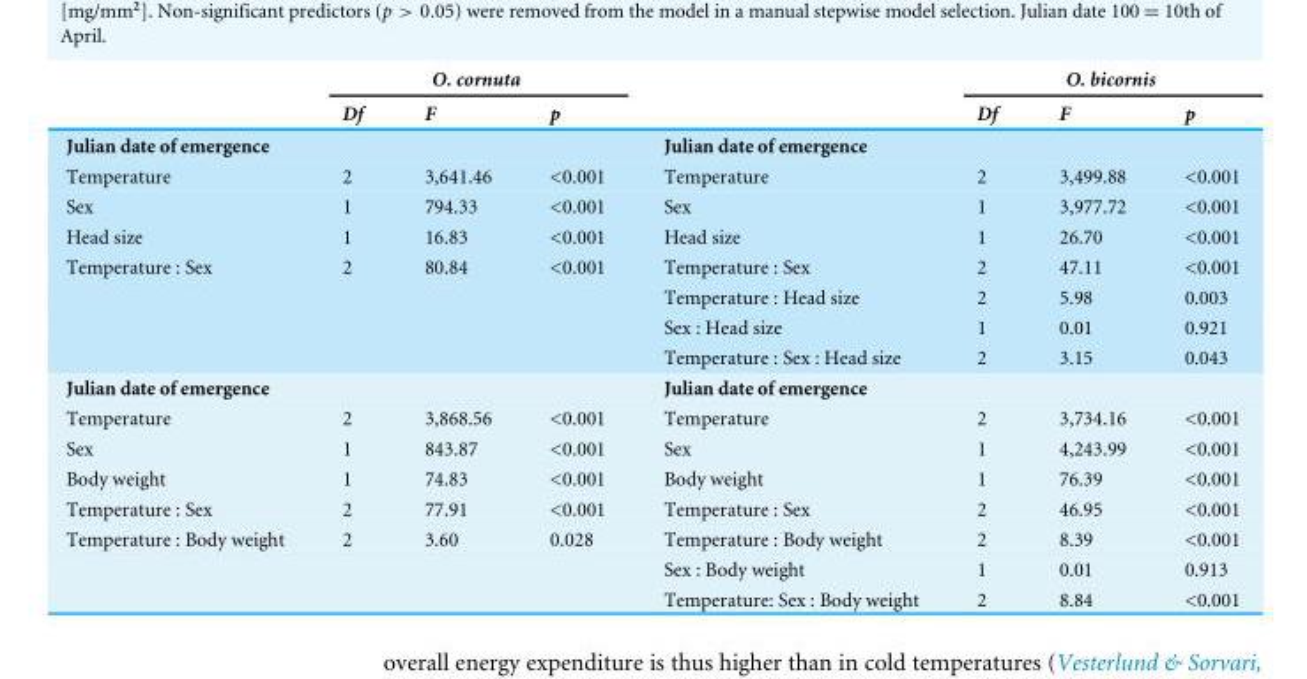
<table><thead><tr><td rowspan="2"></td><td colspan="3">O. cornuta</td><td rowspan="2"></td><td colspan="3">O. bicornis</td></tr><tr><td>Df</td><td>F</td><td>p</td><td>Df</td><td>F</td><td>p</td></tr></thead><tbody><tr><td>Julian date of emergence</td><td></td><td></td><td></td><td>Julian date of emergence</td><td></td><td></td><td></td></tr><tr><td>Temperature</td><td>2</td><td>3,641.46</td><td>&lt;0.001</td><td>Temperature</td><td>2</td><td>3,499.88</td><td>&lt;0.001</td></tr><tr><td>Sex</td><td>1</td><td>794.33</td><td>&lt;0.001</td><td>Sex</td><td>1</td><td>3,977.72</td><td>&lt;0.001</td></tr><tr><td>Head size</td><td>1</td><td>16.83</td><td>&lt;0.001</td><td>Head size</td><td>1</td><td>26.70</td><td>&lt;0.001</td></tr><tr><td rowspan="4">Temperature : Sex</td><td>2</td><td>80.84</td><td>&lt;0.001</td><td>Temperature : Sex</td><td>2</td><td>47.11</td><td>&lt;0.001</td></tr><tr><td></td><td></td><td></td><td>Temperature : Head size</td><td>2</td><td>5.98</td><td>0.003</td></tr><tr><td></td><td></td><td></td><td>Sex : Head size</td><td>1</td><td>0.01</td><td>0.921</td></tr><tr><td></td><td></td><td></td><td>Temperature : Sex : Head size</td><td>2</td><td>3.15</td><td>0.043</td></tr><tr><td>Julian date of emergence</td><td></td><td></td><td></td><td>Julian date of emergence</td><td></td><td></td><td></td></tr><tr><td>Temperature</td><td>2</td><td>3,868.56</td><td>&lt;0.001</td><td>Temperature</td><td>2</td><td>3,734.16</td><td>&lt;0.001</td></tr><tr><td>Sex</td><td>1</td><td>843.87</td><td>&lt;0.001</td><td>Sex</td><td>1</td><td>4,243.99</td><td>&lt;0.001</td></tr><tr><td>Body weight</td><td>1</td><td>74.83</td><td>&lt;0.001</td><td>Body weight</td><td>1</td><td>76.39</td><td>&lt;0.001</td></tr><tr><td>Temperature : Sex</td><td>2</td><td>77.91</td><td>&lt;0.001</td><td>Temperature : Sex</td><td>2</td><td>46.95</td><td>&lt;0.001</td></tr><tr><td rowspan="3">Temperature : Body weight</td><td>2</td><td>3.60</td><td>0.028</td><td>Temperature : Body weight</td><td>2</td><td>8.39</td><td>&lt;0.001</td></tr><tr><td></td><td></td><td></td><td>Sex : Body weight</td><td>1</td><td>0.01</td><td>0.913</td></tr><tr><td></td><td></td><td></td><td>Temperature: Sex : Body weight</td><td>2</td><td>8.84</td><td>&lt;0.001</td></tr></tbody></table>